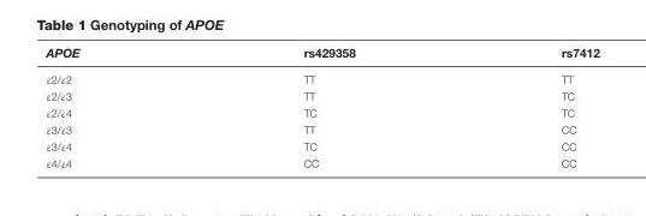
<table><thead><tr><td>APOE</td><td>rs429358</td><td>rs7412</td></tr></thead><tbody><tr><td>ε2/ε2</td><td>TT</td><td>TT</td></tr><tr><td>ε2/ε3</td><td>TT</td><td>TC</td></tr><tr><td>ε2/ε4</td><td>TC</td><td>TC</td></tr><tr><td>ε3/ε3</td><td>TT</td><td>CC</td></tr><tr><td>ε3/ε4</td><td>TC</td><td>CC</td></tr><tr><td>ε4/ε4</td><td>CC</td><td>CC</td></tr></tbody></table>